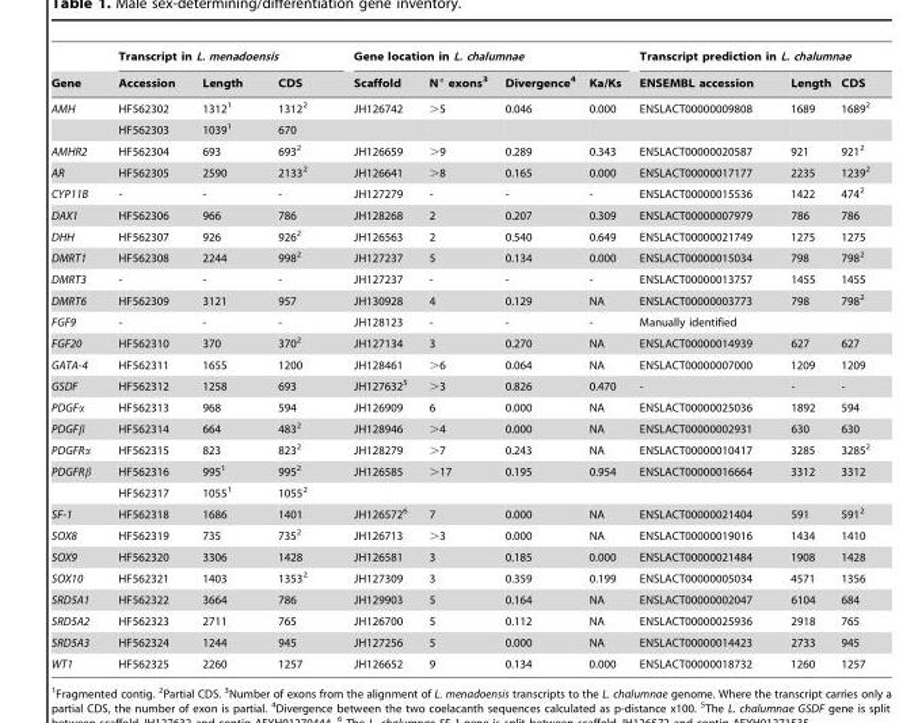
<table><thead><tr><td rowspan="2">Gene</td><td colspan="3">Transcript in L. menadoensis</td><td colspan="4">Gene location in L. chalumnae</td><td colspan="3">Transcript prediction in L. chalumnae</td></tr><tr><td>Accession</td><td>Length</td><td>CDS</td><td>Scaffold</td><td>N° exons<sup>3</sup></td><td>Divergence<sup>4</sup></td><td>Ka/Ks</td><td>ENSEMBL accession</td><td>Length</td><td>CDS</td></tr></thead><tbody><tr><td rowspan="2">AMH</td><td>HF562302</td><td>1312<sup>1</sup></td><td>1312<sup>2</sup></td><td>JH126742</td><td>&gt;5</td><td>0.046</td><td>0.000</td><td>ENSLACT00000009808</td><td>1689</td><td>1689<sup>2</sup></td></tr><tr><td>HF562303</td><td>1039<sup>1</sup></td><td>670</td><td></td><td></td><td></td><td></td><td></td><td></td><td></td></tr><tr><td>AMHR2</td><td>HF562304</td><td>693</td><td>693<sup>2</sup></td><td>JH126659</td><td>&gt;9</td><td>0.289</td><td>0.343</td><td>ENSLACT00000020587</td><td>921</td><td>921<sup>2</sup></td></tr><tr><td>AR</td><td>HF562305</td><td>2590</td><td>2133<sup>2</sup></td><td>JH126641</td><td>&gt;8</td><td>0.165</td><td>0.000</td><td>ENSLACT00000017177</td><td>2235</td><td>1239<sup>2</sup></td></tr><tr><td>CYP11B</td><td>-</td><td>-</td><td>-</td><td>JH127279</td><td>-</td><td>-</td><td>-</td><td>ENSLACT00000015536</td><td>1422</td><td>474<sup>2</sup></td></tr><tr><td>DAX1</td><td>HF562306</td><td>966</td><td>786</td><td>JH128268</td><td>2</td><td>0.207</td><td>0.309</td><td>ENSLACT00000007979</td><td>786</td><td>786</td></tr><tr><td>DHH</td><td>HF562307</td><td>926</td><td>926<sup>2</sup></td><td>JH126563</td><td>2</td><td>0.540</td><td>0.649</td><td>ENSLACT00000021749</td><td>1275</td><td>1275</td></tr><tr><td>DMRT1</td><td>HF562308</td><td>2244</td><td>998<sup>2</sup></td><td>JH127237</td><td>5</td><td>0.134</td><td>0.000</td><td>ENSLACT00000015034</td><td>798</td><td>798<sup>2</sup></td></tr><tr><td>DMRT3</td><td>-</td><td>-</td><td>-</td><td>JH127237</td><td>-</td><td>-</td><td>-</td><td>ENSLACT00000013757</td><td>1455</td><td>1455</td></tr><tr><td>DMRT6</td><td>HF562309</td><td>3121</td><td>957</td><td>JH130928</td><td>4</td><td>0.129</td><td>NA</td><td>ENSLACT00000003773</td><td>798</td><td>798<sup>2</sup></td></tr><tr><td>FGF9</td><td>-</td><td>-</td><td>-</td><td>JH128123</td><td>-</td><td>-</td><td>-</td><td colspan="3">Manually identified</td></tr><tr><td>FGF20</td><td>HF562310</td><td>370</td><td>370<sup>2</sup></td><td>JH127134</td><td>3</td><td>0.270</td><td>NA</td><td>ENSLACT00000014939</td><td>627</td><td>627</td></tr><tr><td>GATA-4</td><td>HF562311</td><td>1655</td><td>1200</td><td>JH128461</td><td>&gt;6</td><td>0.064</td><td>NA</td><td>ENSLACT00000007000</td><td>1209</td><td>1209</td></tr><tr><td>GSDF</td><td>HF562312</td><td>1258</td><td>693</td><td>JH127632<sup>5</sup></td><td>&gt;3</td><td>0.826</td><td>0.470</td><td>-</td><td>-</td><td>-</td></tr><tr><td>PDGFα</td><td>HF562313</td><td>968</td><td>594</td><td>JH126909</td><td>6</td><td>0.000</td><td>NA</td><td>ENSLACT00000025036</td><td>1892</td><td>594</td></tr><tr><td>PDGFβ</td><td>HF562314</td><td>664</td><td>483<sup>2</sup></td><td>JH128946</td><td>&gt;4</td><td>0.000</td><td>NA</td><td>ENSLACT00000002931</td><td>630</td><td>630</td></tr><tr><td>PDGFRα</td><td>HF562315</td><td>823</td><td>823<sup>2</sup></td><td>JH128279</td><td>&gt;7</td><td>0.243</td><td>NA</td><td>ENSLACT00000010417</td><td>3285</td><td>3285<sup>2</sup></td></tr><tr><td rowspan="2">PDGFRβ</td><td>HF562316</td><td>995<sup>1</sup></td><td>995<sup>2</sup></td><td>JH126585</td><td>&gt;17</td><td>0.195</td><td>0.954</td><td>ENSLACT00000016664</td><td>3312</td><td>3312</td></tr><tr><td>HF562317</td><td>1055<sup>1</sup></td><td>1055<sup>2</sup></td><td></td><td></td><td></td><td></td><td></td><td></td><td></td></tr><tr><td>SF-1</td><td>HF562318</td><td>1686</td><td>1401</td><td>JH126572<sup>6</sup></td><td>7</td><td>0.000</td><td>NA</td><td>ENSLACT00000021404</td><td>591</td><td>591<sup>2</sup></td></tr><tr><td>SOX8</td><td>HF562319</td><td>735</td><td>735<sup>2</sup></td><td>JH126713</td><td>&gt;3</td><td>0.000</td><td>NA</td><td>ENSLACT00000019016</td><td>1434</td><td>1410</td></tr><tr><td>SOX9</td><td>HF562320</td><td>3306</td><td>1428</td><td>JH126581</td><td>3</td><td>0.185</td><td>0.000</td><td>ENSLACT00000021484</td><td>1908</td><td>1428</td></tr><tr><td>SOX10</td><td>HF562321</td><td>1403</td><td>1353<sup>2</sup></td><td>JH127309</td><td>3</td><td>0.359</td><td>0.199</td><td>ENSLACT00000005034</td><td>4571</td><td>1356</td></tr><tr><td>SRD5A1</td><td>HF562322</td><td>3664</td><td>786</td><td>JH129903</td><td>5</td><td>0.164</td><td>NA</td><td>ENSLACT00000002047</td><td>6104</td><td>684</td></tr><tr><td>SRD5A2</td><td>HF562323</td><td>2711</td><td>765</td><td>JH126700</td><td>5</td><td>0.112</td><td>NA</td><td>ENSLACT00000025936</td><td>2918</td><td>765</td></tr><tr><td>SRD5A3</td><td>HF562324</td><td>1244</td><td>945</td><td>JH127256</td><td>5</td><td>0.000</td><td>NA</td><td>ENSLACT00000014423</td><td>2733</td><td>945</td></tr><tr><td>WT1</td><td>HF562325</td><td>2260</td><td>1257</td><td>JH126652</td><td>9</td><td>0.134</td><td>0.000</td><td>ENSLACT00000018732</td><td>1260</td><td>1257</td></tr></tbody></table>